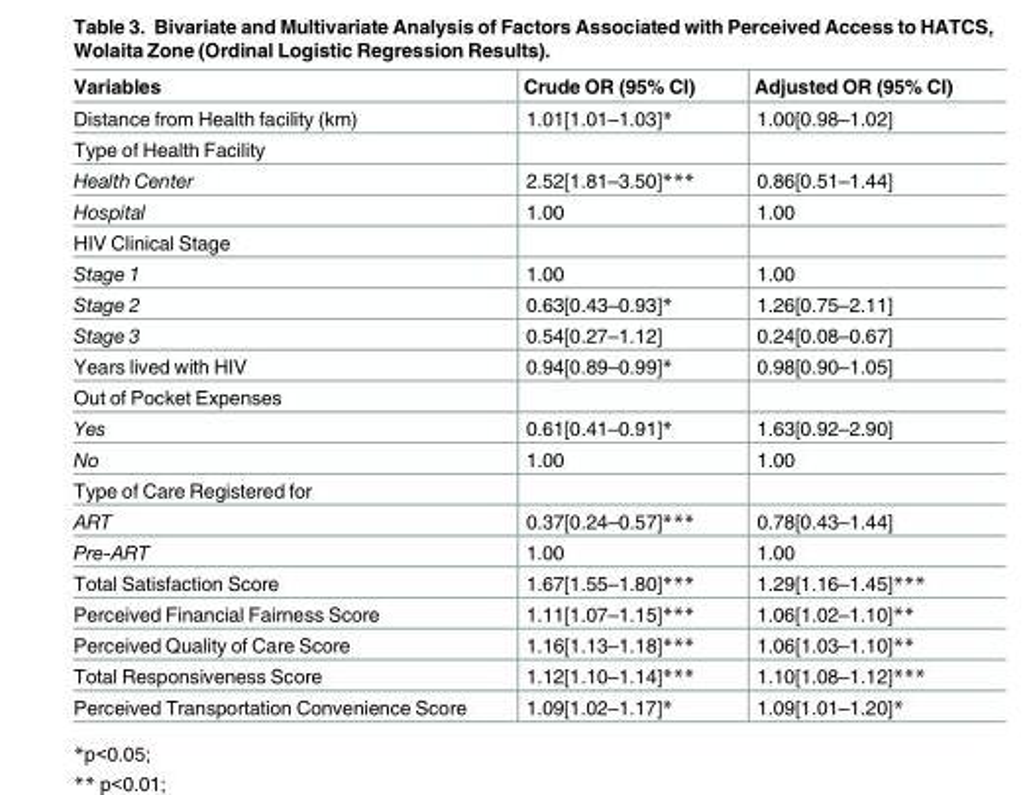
<table><thead><tr><td>Variables</td><td>Crude OR (95% CI)</td><td>Adjusted OR (95% CI)</td></tr></thead><tbody><tr><td>Distance from Health facility (km)</td><td>1.01[1.01–1.03]*</td><td>1.00[0.98–1.02]</td></tr><tr><td colspan="3">Type of Health Facility</td></tr><tr><td>Health Center</td><td>2.52[1.81–3.50]***</td><td>0.86[0.51–1.44]</td></tr><tr><td>Hospital</td><td>1.00</td><td>1.00</td></tr><tr><td colspan="3">HIV Clinical Stage</td></tr><tr><td>Stage 1</td><td>1.00</td><td>1.00</td></tr><tr><td>Stage 2</td><td>0.63[0.43–0.93]*</td><td>1.26[0.75–2.11]</td></tr><tr><td>Stage 3</td><td>0.54[0.27–1.12]</td><td>0.24[0.08–0.67]</td></tr><tr><td>Years lived with HIV</td><td>0.94[0.89–0.99]*</td><td>0.98[0.90–1.05]</td></tr><tr><td colspan="3">Out of Pocket Expenses</td></tr><tr><td>Yes</td><td>0.61[0.41–0.91]*</td><td>1.63[0.92–2.90]</td></tr><tr><td>No</td><td>1.00</td><td>1.00</td></tr><tr><td colspan="3">Type of Care Registered for</td></tr><tr><td>ART</td><td>0.37[0.24–0.57]***</td><td>0.78[0.43–1.44]</td></tr><tr><td>Pre-ART</td><td>1.00</td><td>1.00</td></tr><tr><td>Total Satisfaction Score</td><td>1.67[1.55–1.80]***</td><td>1.29[1.16–1.45]***</td></tr><tr><td>Perceived Financial Fairness Score</td><td>1.11[1.07–1.15]***</td><td>1.06[1.02–1.10]**</td></tr><tr><td>Perceived Quality of Care Score</td><td>1.16[1.13–1.18]***</td><td>1.06[1.03–1.10]**</td></tr><tr><td>Total Responsiveness Score</td><td>1.12[1.10–1.14]***</td><td>1.10[1.08–1.12]***</td></tr><tr><td>Perceived Transportation Convenience Score</td><td>1.09[1.02–1.17]*</td><td>1.09[1.01–1.20]*</td></tr></tbody></table>